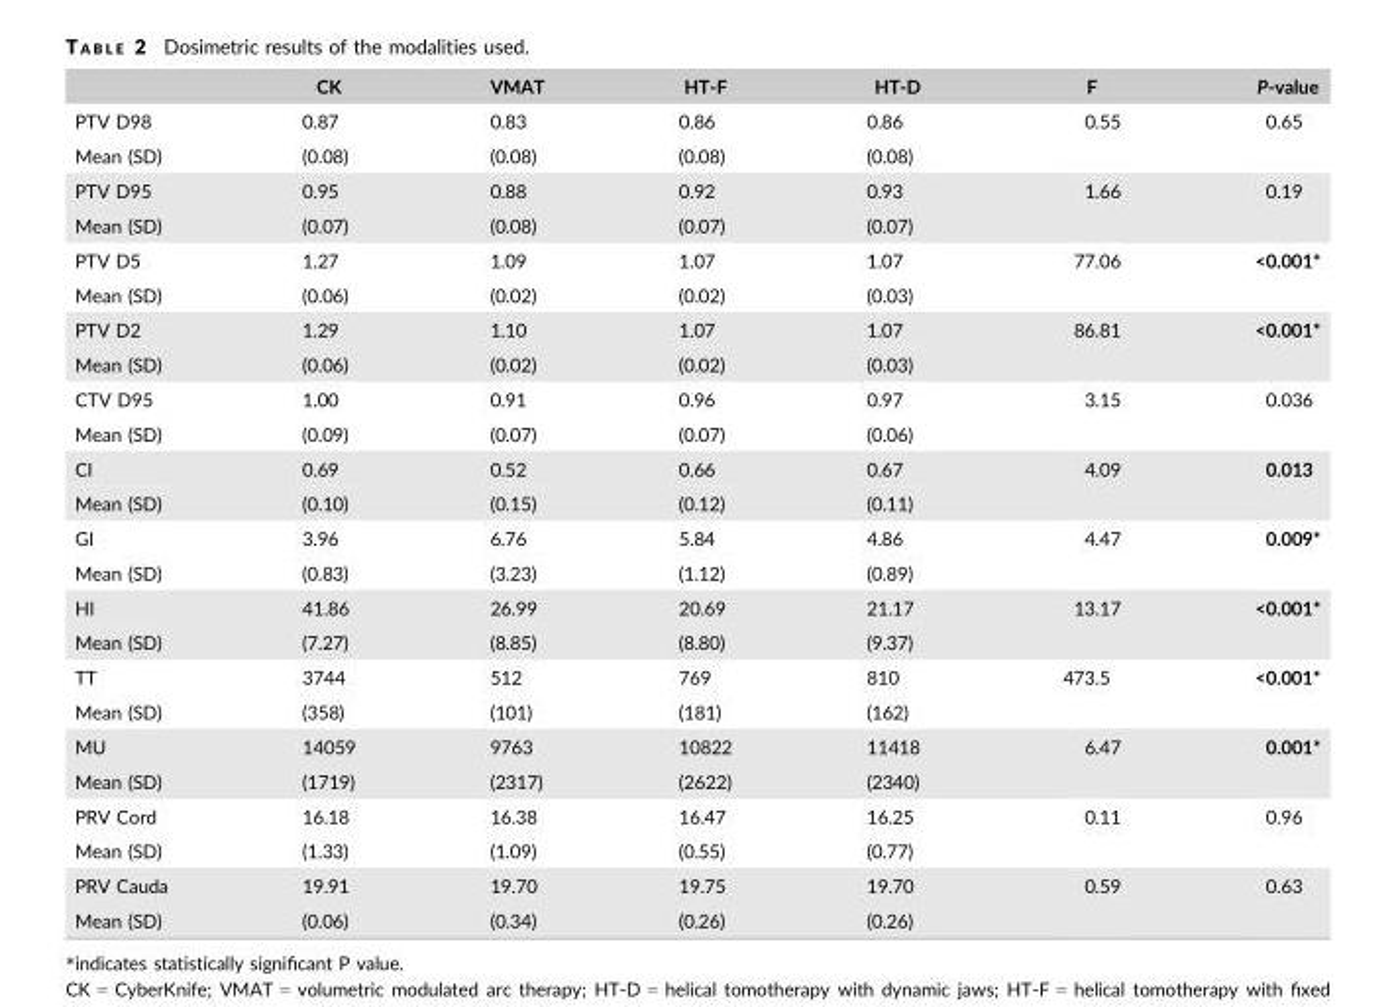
<table><thead><tr><td></td><td>CK</td><td>VMAT</td><td>HT-F</td><td>HT-D</td><td>F</td><td>P-value</td></tr></thead><tbody><tr><td>PTV D98</td><td>0.87</td><td>0.83</td><td>0.86</td><td>0.86</td><td rowspan="2">0.55</td><td rowspan="2">0.65</td></tr><tr><td>Mean (SD)</td><td>(0.08)</td><td>(0.08)</td><td>(0.08)</td><td>(0.08)</td></tr><tr><td>PTV D95</td><td>0.95</td><td>0.88</td><td>0.92</td><td>0.93</td><td rowspan="2">1.66</td><td rowspan="2">0.19</td></tr><tr><td>Mean (SD)</td><td>(0.07)</td><td>(0.08)</td><td>(0.07)</td><td>(0.07)</td></tr><tr><td>PTV D5</td><td>1.27</td><td>1.09</td><td>1.07</td><td>1.07</td><td rowspan="2">77.06</td><td rowspan="2">&lt;0.001*</td></tr><tr><td>Mean (SD)</td><td>(0.06)</td><td>(0.02)</td><td>(0.02)</td><td>(0.03)</td></tr><tr><td>PTV D2</td><td>1.29</td><td>1.10</td><td>1.07</td><td>1.07</td><td rowspan="2">86.81</td><td rowspan="2">&lt;0.001*</td></tr><tr><td>Mean (SD)</td><td>(0.06)</td><td>(0.02)</td><td>(0.02)</td><td>(0.03)</td></tr><tr><td>CTV D95</td><td>1.00</td><td>0.91</td><td>0.96</td><td>0.97</td><td rowspan="2">3.15</td><td rowspan="2">0.036</td></tr><tr><td>Mean (SD)</td><td>(0.09)</td><td>(0.07)</td><td>(0.07)</td><td>(0.06)</td></tr><tr><td>CI</td><td>0.69</td><td>0.52</td><td>0.66</td><td>0.67</td><td rowspan="2">4.09</td><td rowspan="2">0.013</td></tr><tr><td>Mean (SD)</td><td>(0.10)</td><td>(0.15)</td><td>(0.12)</td><td>(0.11)</td></tr><tr><td>GI</td><td>3.96</td><td>6.76</td><td>5.84</td><td>4.86</td><td rowspan="2">4.47</td><td rowspan="2">0.009*</td></tr><tr><td>Mean (SD)</td><td>(0.83)</td><td>(3.23)</td><td>(1.12)</td><td>(0.89)</td></tr><tr><td>HI</td><td>41.86</td><td>26.99</td><td>20.69</td><td>21.17</td><td rowspan="2">13.17</td><td rowspan="2">&lt;0.001*</td></tr><tr><td>Mean (SD)</td><td>(7.27)</td><td>(8.85)</td><td>(8.80)</td><td>(9.37)</td></tr><tr><td>TT</td><td>3744</td><td>512</td><td>769</td><td>810</td><td rowspan="2">473.5</td><td rowspan="2">&lt;0.001*</td></tr><tr><td>Mean (SD)</td><td>(358)</td><td>(101)</td><td>(181)</td><td>(162)</td></tr><tr><td>MU</td><td>14059</td><td>9763</td><td>10822</td><td>11418</td><td rowspan="2">6.47</td><td rowspan="2">0.001*</td></tr><tr><td>Mean (SD)</td><td>(1719)</td><td>(2317)</td><td>(2622)</td><td>(2340)</td></tr><tr><td>PRV Cord</td><td>16.18</td><td>16.38</td><td>16.47</td><td>16.25</td><td rowspan="2">0.11</td><td rowspan="2">0.96</td></tr><tr><td>Mean (SD)</td><td>(1.33)</td><td>(1.09)</td><td>(0.55)</td><td>(0.77)</td></tr><tr><td>PRV Cauda</td><td>19.91</td><td>19.70</td><td>19.75</td><td>19.70</td><td rowspan="2">0.59</td><td rowspan="2">0.63</td></tr><tr><td>Mean (SD)</td><td>(0.06)</td><td>(0.34)</td><td>(0.26)</td><td>(0.26)</td></tr></tbody></table>